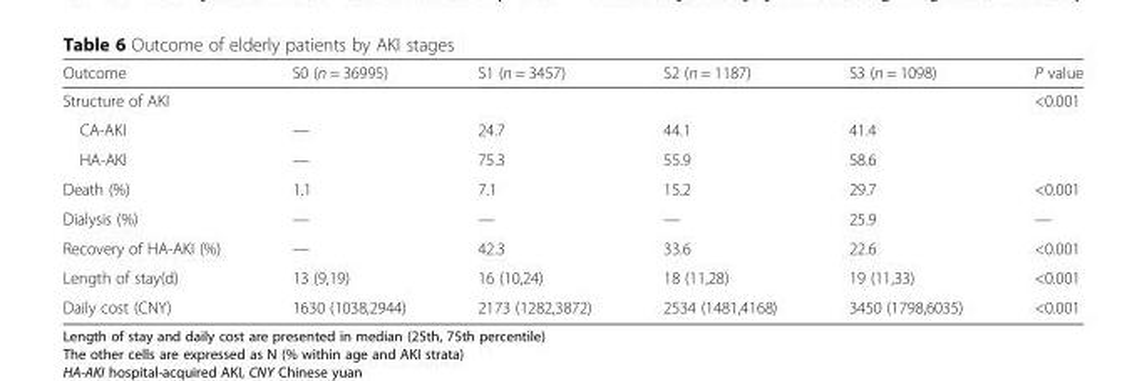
<table><thead><tr><td>Outcome</td><td>S0 (n = 36995)</td><td>S1 (n = 3457)</td><td>S2 (n = 1187)</td><td>S3 (n = 1098)</td><td>P value</td></tr></thead><tbody><tr><td>Structure of AKI</td><td></td><td></td><td></td><td></td><td>&lt;0.001</td></tr><tr><td>CA-AKI</td><td>—</td><td>24.7</td><td>44.1</td><td>41.4</td><td></td></tr><tr><td>HA-AKI</td><td>—</td><td>75.3</td><td>55.9</td><td>58.6</td><td></td></tr><tr><td>Death (%)</td><td>1.1</td><td>7.1</td><td>15.2</td><td>29.7</td><td>&lt;0.001</td></tr><tr><td>Dialysis (%)</td><td>—</td><td>—</td><td>—</td><td>25.9</td><td>—</td></tr><tr><td>Recovery of HA-AKI (%)</td><td>—</td><td>42.3</td><td>33.6</td><td>22.6</td><td>&lt;0.001</td></tr><tr><td>Length of stay(d)</td><td>13 (9,19)</td><td>16 (10,24)</td><td>18 (11,28)</td><td>19 (11,33)</td><td>&lt;0.001</td></tr><tr><td>Daily cost (CNY)</td><td>1630 (1038,2944)</td><td>2173 (1282,3872)</td><td>2534 (1481,4168)</td><td>3450 (1798,6035)</td><td>&lt;0.001</td></tr></tbody></table>